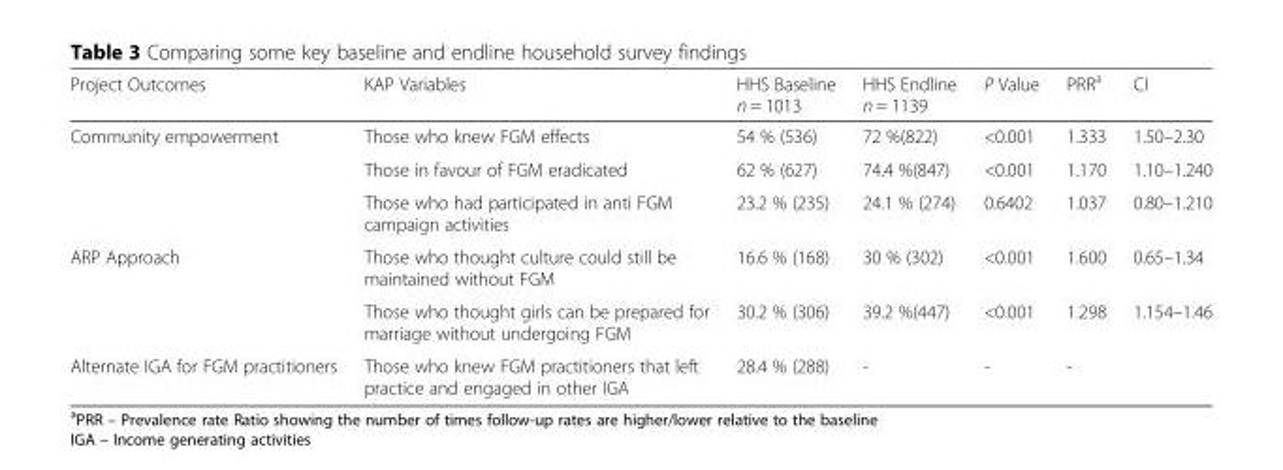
<table><thead><tr><td>Project Outcomes</td><td>KAP Variables</td><td>HHS Baseline n = 1013</td><td>HHS Endline n = 1139</td><td>P Value</td><td>PRR<sup>a</sup></td><td>CI</td></tr></thead><tbody><tr><td rowspan="3">Community empowerment</td><td>Those who knew FGM effects</td><td>54 % (536)</td><td>72 %(822)</td><td>&lt;0.001</td><td>1.333</td><td>1.50–2.30</td></tr><tr><td>Those in favour of FGM eradicated</td><td>62 % (627)</td><td>74.4 %(847)</td><td>&lt;0.001</td><td>1.170</td><td>1.10–1.240</td></tr><tr><td>Those who had participated in anti FGM campaign activities</td><td>23.2 % (235)</td><td>24.1 % (274)</td><td>0.6402</td><td>1.037</td><td>0.80–1.210</td></tr><tr><td rowspan="2">ARP Approach</td><td>Those who thought culture could still be maintained without FGM</td><td>16.6 % (168)</td><td>30 % (302)</td><td>&lt;0.001</td><td>1.600</td><td>0.65–1.34</td></tr><tr><td>Those who thought girls can be prepared for marriage without undergoing FGM</td><td>30.2 % (306)</td><td>39.2 %(447)</td><td>&lt;0.001</td><td>1.298</td><td>1.154–1.46</td></tr><tr><td>Alternate IGA for FGM practitioners</td><td>Those who knew FGM practitioners that left practice and engaged in other IGA</td><td>28.4 % (288)</td><td>-</td><td>-</td><td>-</td><td></td></tr></tbody></table>